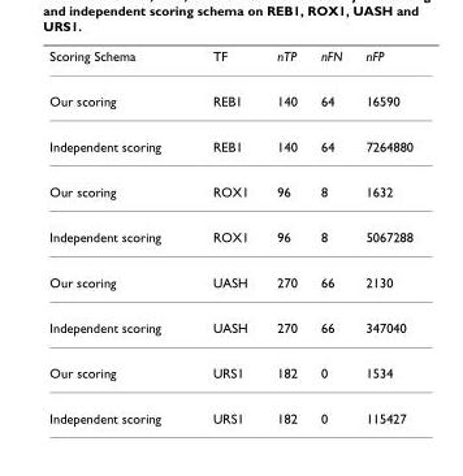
<table><thead><tr><td>Scoring Schema</td><td>TF</td><td>nTP</td><td>nFN</td><td>nFP</td></tr></thead><tbody><tr><td>Our scoring</td><td>REB1</td><td>140</td><td>64</td><td>16590</td></tr><tr><td>Independent scoring</td><td>REB1</td><td>140</td><td>64</td><td>7264880</td></tr><tr><td>Our scoring</td><td>ROX1</td><td>96</td><td>8</td><td>1632</td></tr><tr><td>Independent scoring</td><td>ROX1</td><td>96</td><td>8</td><td>5067288</td></tr><tr><td>Our scoring</td><td>UASH</td><td>270</td><td>66</td><td>2130</td></tr><tr><td>Independent scoring</td><td>UASH</td><td>270</td><td>66</td><td>347040</td></tr><tr><td>Our scoring</td><td>URS1</td><td>182</td><td>0</td><td>1534</td></tr><tr><td>Independent scoring</td><td>URS1</td><td>182</td><td>0</td><td>115427</td></tr></tbody></table>